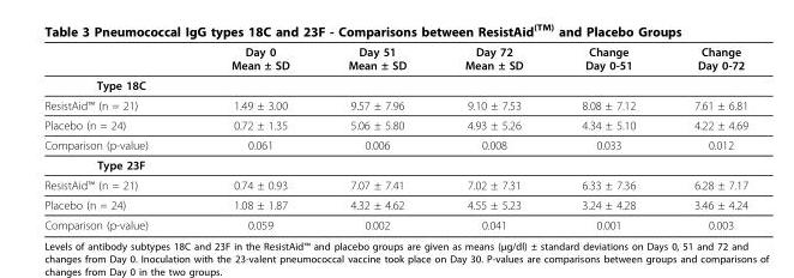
<table><thead><tr><td></td><td>Day 0 Mean ± SD</td><td>Day 51 Mean ± SD</td><td>Day 72 Mean ± SD</td><td>Change Day 0-51</td><td>Change Day 0-72</td></tr></thead><tbody><tr><td colspan="6">Type 18C</td></tr><tr><td>ResistAid™ (n = 21)</td><td>1.49 ± 3.00</td><td>9.57 ± 7.96</td><td>9.10 ± 7.53</td><td>8.08 ± 7.12</td><td>7.61 ± 6.81</td></tr><tr><td>Placebo (n = 24)</td><td>0.72 ± 1.35</td><td>5.06 ± 5.80</td><td>4.93 ± 5.26</td><td>4.34 ± 5.10</td><td>4.22 ± 4.69</td></tr><tr><td>Comparison (p-value)</td><td>0.061</td><td>0.006</td><td>0.008</td><td>0.033</td><td>0.012</td></tr><tr><td colspan="6">Type 23F</td></tr><tr><td>ResistAid™ (n = 21)</td><td>0.74 ± 0.93</td><td>7.07 ± 7.41</td><td>7.02 ± 7.31</td><td>6.33 ± 7.36</td><td>6.28 ± 7.17</td></tr><tr><td>Placebo (n = 24)</td><td>1.08 ± 1.87</td><td>4.32 ± 4.62</td><td>4.55 ± 5.23</td><td>3.24 ± 4.28</td><td>3.46 ± 4.24</td></tr><tr><td>Comparison (p-value)</td><td>0.059</td><td>0.002</td><td>0.041</td><td>0.001</td><td>0.003</td></tr></tbody></table>